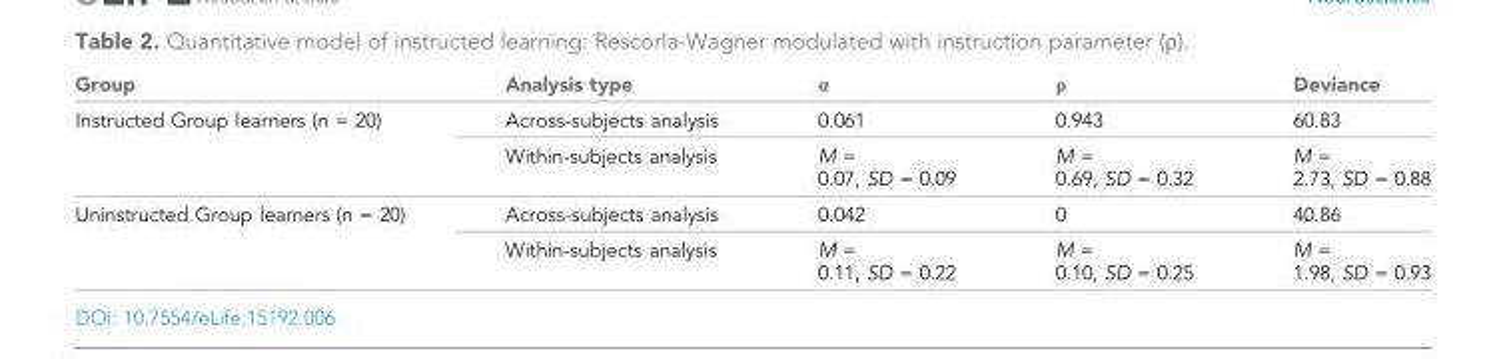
<table><thead><tr><td>Group</td><td>Analysis type</td><td>α</td><td>ρ</td><td>Deviance</td></tr></thead><tbody><tr><td rowspan="2">Instructed Group learners (n = 20)</td><td>Across-subjects analysis</td><td>0.061</td><td>0.943</td><td>60.83</td></tr><tr><td>Within-subjects analysis</td><td>M = 0.07, SD = 0.09</td><td>M = 0.69, SD = 0.32</td><td>M = 2.73, SD = 0.88</td></tr><tr><td rowspan="2">Uninstructed Group learners (n = 20)</td><td>Across-subjects analysis</td><td>0.042</td><td>0</td><td>40.86</td></tr><tr><td>Within-subjects analysis</td><td>M = 0.11, SD = 0.22</td><td>M = 0.10, SD = 0.25</td><td>M = 1.98, SD = 0.93</td></tr></tbody></table>